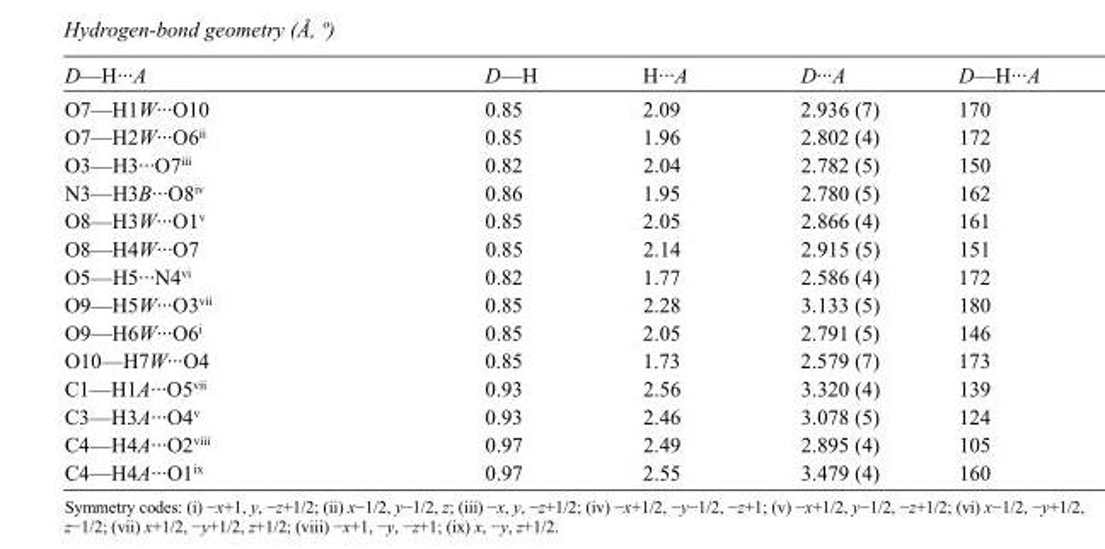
<table><tbody><tr><td>D—H···A</td><td>D—H</td><td>H···A</td><td>D···A</td><td>D—H···A</td></tr><tr><td>O7—H1W···O10</td><td>0.85</td><td>2.09</td><td>2.936 (7)</td><td>170</td></tr><tr><td>O7—H2W···O6<sup>ii</sup></td><td>0.85</td><td>1.96</td><td>2.802 (4)</td><td>172</td></tr><tr><td>O3—H3···O7<sup>iii</sup></td><td>0.82</td><td>2.04</td><td>2.782 (5)</td><td>150</td></tr><tr><td>N3—H3B···O8<sup>iv</sup></td><td>0.86</td><td>1.95</td><td>2.780 (5)</td><td>162</td></tr><tr><td>O8—H3W···O1<sup>v</sup></td><td>0.85</td><td>2.05</td><td>2.866 (4)</td><td>161</td></tr><tr><td>O8—H4W···O7</td><td>0.85</td><td>2.14</td><td>2.915 (5)</td><td>151</td></tr><tr><td>O5—H5···N4<sup>vi</sup></td><td>0.82</td><td>1.77</td><td>2.586 (4)</td><td>172</td></tr><tr><td>O9—H5W···O3<sup>vii</sup></td><td>0.85</td><td>2.28</td><td>3.133 (5)</td><td>180</td></tr><tr><td>O9—H6W···O6<sup>i</sup></td><td>0.85</td><td>2.05</td><td>2.791 (5)</td><td>146</td></tr><tr><td>O10—H7W···O4</td><td>0.85</td><td>1.73</td><td>2.579 (7)</td><td>173</td></tr><tr><td>C1—H1A···O5<sup>vii</sup></td><td>0.93</td><td>2.56</td><td>3.320 (4)</td><td>139</td></tr><tr><td>C3—H3A···O4<sup>v</sup></td><td>0.93</td><td>2.46</td><td>3.078 (5)</td><td>124</td></tr><tr><td>C4—H4A···O2<sup>viii</sup></td><td>0.97</td><td>2.49</td><td>2.895 (4)</td><td>105</td></tr><tr><td>C4—H4A···O1<sup>ix</sup></td><td>0.97</td><td>2.55</td><td>3.479 (4)</td><td>160</td></tr></tbody></table>